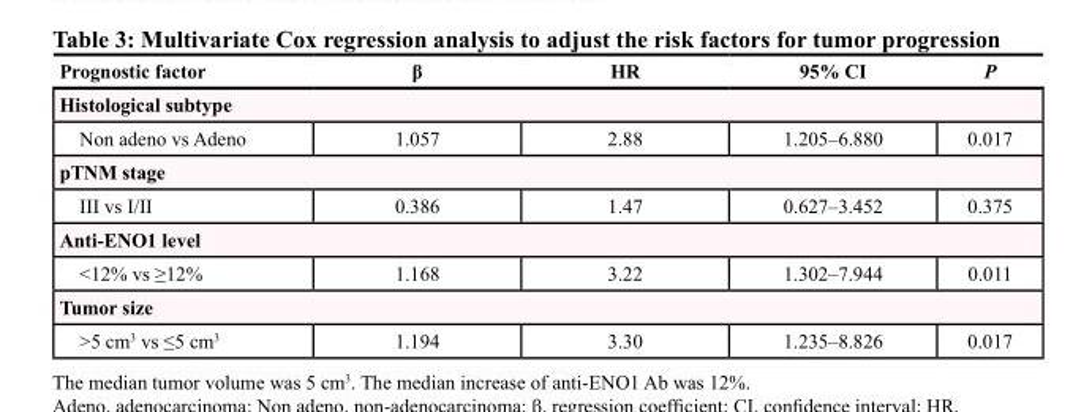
<table><thead><tr><td>Prognostic factor</td><td>β</td><td>HR</td><td>95% CI</td><td>P</td></tr></thead><tbody><tr><td colspan="5">Histological subtype</td></tr><tr><td>Non adeno vs Adeno</td><td>1.057</td><td>2.88</td><td>1.205–6.880</td><td>0.017</td></tr><tr><td colspan="5">pTNM stage</td></tr><tr><td>III vs I/II</td><td>0.386</td><td>1.47</td><td>0.627–3.452</td><td>0.375</td></tr><tr><td colspan="5">Anti-ENO1 level</td></tr><tr><td>&lt;12% vs ≥12%</td><td>1.168</td><td>3.22</td><td>1.302–7.944</td><td>0.011</td></tr><tr><td colspan="5">Tumor size</td></tr><tr><td>&gt;5 cm<sup>3</sup> vs ≤5 cm<sup>3</sup></td><td>1.194</td><td>3.30</td><td>1.235–8.826</td><td>0.017</td></tr></tbody></table>